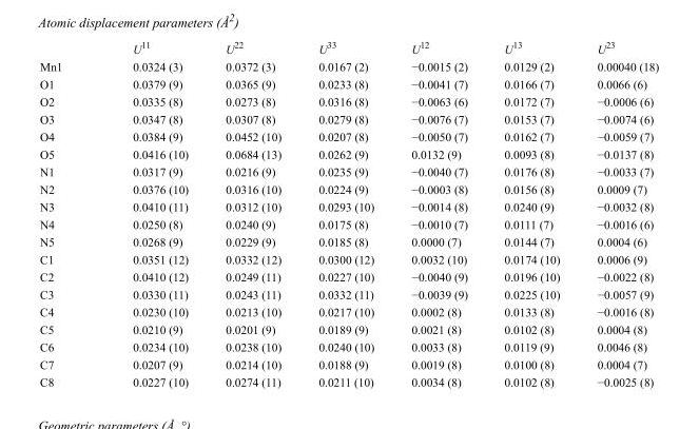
<table><thead><tr><td></td><td>U<sup>11</sup></td><td>U<sup>22</sup></td><td>U<sup>33</sup></td><td>U<sup>12</sup></td><td>U<sup>13</sup></td><td>U<sup>23</sup></td></tr></thead><tbody><tr><td>Mn1</td><td>0.0324 (3)</td><td>0.0372 (3)</td><td>0.0167 (2)</td><td>−0.0015 (2)</td><td>0.0129 (2)</td><td>0.00040 (18)</td></tr><tr><td>O1</td><td>0.0379 (9)</td><td>0.0365 (9)</td><td>0.0233 (8)</td><td>−0.0041 (7)</td><td>0.0166 (7)</td><td>0.0066 (6)</td></tr><tr><td>O2</td><td>0.0335 (8)</td><td>0.0273 (8)</td><td>0.0316 (8)</td><td>−0.0063 (6)</td><td>0.0172 (7)</td><td>−0.0006 (6)</td></tr><tr><td>O3</td><td>0.0347 (8)</td><td>0.0307 (8)</td><td>0.0279 (8)</td><td>−0.0076 (7)</td><td>0.0153 (7)</td><td>−0.0074 (6)</td></tr><tr><td>O4</td><td>0.0384 (9)</td><td>0.0452 (10)</td><td>0.0207 (8)</td><td>−0.0050 (7)</td><td>0.0162 (7)</td><td>−0.0059 (7)</td></tr><tr><td>O5</td><td>0.0416 (10)</td><td>0.0684 (13)</td><td>0.0262 (9)</td><td>0.0132 (9)</td><td>0.0093 (8)</td><td>−0.0137 (8)</td></tr><tr><td>N1</td><td>0.0317 (9)</td><td>0.0216 (9)</td><td>0.0235 (9)</td><td>−0.0040 (7)</td><td>0.0176 (8)</td><td>−0.0033 (7)</td></tr><tr><td>N2</td><td>0.0376 (10)</td><td>0.0316 (10)</td><td>0.0224 (9)</td><td>−0.0003 (8)</td><td>0.0156 (8)</td><td>0.0009 (7)</td></tr><tr><td>N3</td><td>0.0410 (11)</td><td>0.0312 (10)</td><td>0.0293 (10)</td><td>−0.0014 (8)</td><td>0.0240 (9)</td><td>−0.0032 (8)</td></tr><tr><td>N4</td><td>0.0250 (8)</td><td>0.0240 (9)</td><td>0.0175 (8)</td><td>−0.0010 (7)</td><td>0.0111 (7)</td><td>−0.0016 (6)</td></tr><tr><td>N5</td><td>0.0268 (9)</td><td>0.0229 (9)</td><td>0.0185 (8)</td><td>0.0000 (7)</td><td>0.0144 (7)</td><td>0.0004 (6)</td></tr><tr><td>C1</td><td>0.0351 (12)</td><td>0.0332 (12)</td><td>0.0300 (12)</td><td>0.0032 (10)</td><td>0.0174 (10)</td><td>0.0006 (9)</td></tr><tr><td>C2</td><td>0.0410 (12)</td><td>0.0249 (11)</td><td>0.0227 (10)</td><td>−0.0040 (9)</td><td>0.0196 (10)</td><td>−0.0022 (8)</td></tr><tr><td>C3</td><td>0.0330 (11)</td><td>0.0243 (11)</td><td>0.0332 (11)</td><td>−0.0039 (9)</td><td>0.0225 (10)</td><td>−0.0057 (9)</td></tr><tr><td>C4</td><td>0.0230 (10)</td><td>0.0213 (10)</td><td>0.0217 (10)</td><td>0.0002 (8)</td><td>0.0133 (8)</td><td>−0.0016 (8)</td></tr><tr><td>C5</td><td>0.0210 (9)</td><td>0.0201 (9)</td><td>0.0189 (9)</td><td>0.0021 (8)</td><td>0.0102 (8)</td><td>0.0004 (8)</td></tr><tr><td>C6</td><td>0.0234 (10)</td><td>0.0238 (10)</td><td>0.0240 (10)</td><td>0.0033 (8)</td><td>0.0119 (9)</td><td>0.0046 (8)</td></tr><tr><td>C7</td><td>0.0207 (9)</td><td>0.0214 (10)</td><td>0.0188 (9)</td><td>0.0019 (8)</td><td>0.0100 (8)</td><td>0.0004 (7)</td></tr><tr><td>C8</td><td>0.0227 (10)</td><td>0.0274 (11)</td><td>0.0211 (10)</td><td>0.0034 (8)</td><td>0.0102 (8)</td><td>−0.0025 (8)</td></tr></tbody></table>